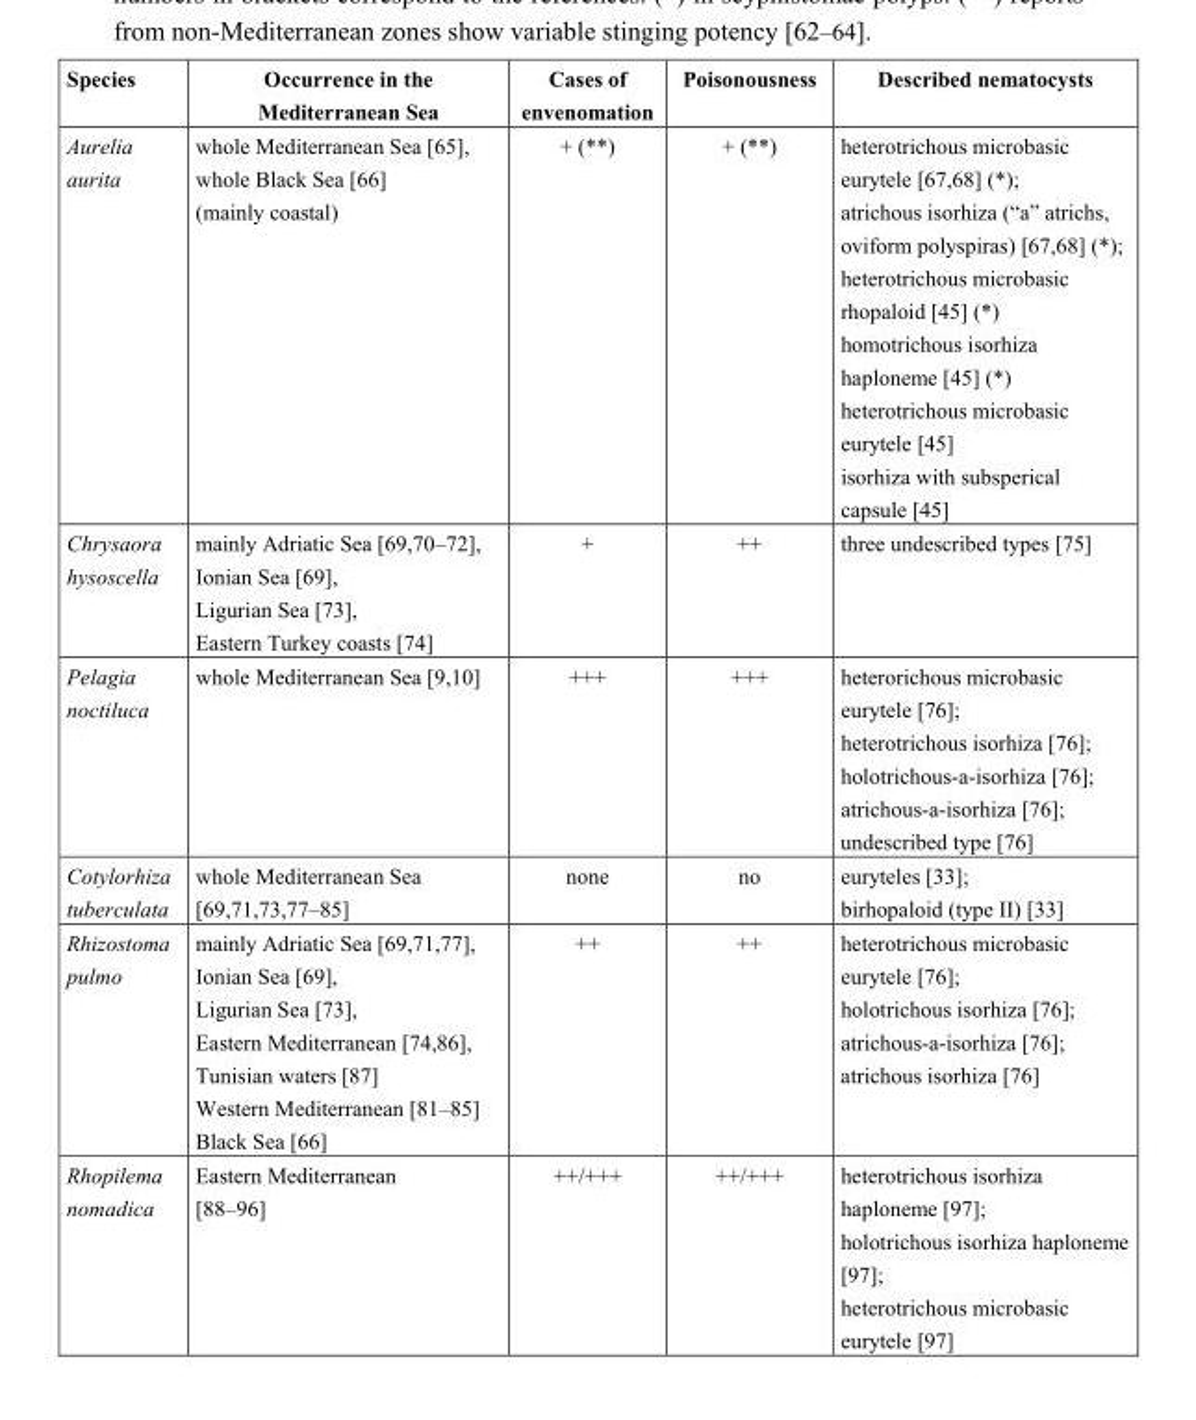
<table><thead><tr><td>Species</td><td>Occurrence in the Mediterranean Sea</td><td>Cases of envenomation</td><td>Poisonousness</td><td>Described nematocysts</td></tr></thead><tbody><tr><td>Aurelia aurita</td><td>whole Mediterranean Sea [65], whole Black Sea [66] (mainly coastal)</td><td>+ (**)</td><td>+ (**)</td><td>heterotrichous microbasic eurytele [67,68] (*); atrichous isorhiza (“a” atrichs, oviform polyspiras) [67,68] (*); heterotrichous microbasic rhopaloid [45] (*) homotrichous isorhiza haploneme [45] (*) heterotrichous microbasic eurytele [45] isorhiza with subsperical capsule [45]</td></tr><tr><td>Chrysaora hysoscella</td><td>mainly Adriatic Sea [69,70–72], Ionian Sea [69], Ligurian Sea [73], Eastern Turkey coasts [74]</td><td>+</td><td>++</td><td>three undescribed types [75]</td></tr><tr><td>Pelagia noctiluca</td><td>whole Mediterranean Sea [9,10]</td><td>+++</td><td>+++</td><td>heterorichous microbasic eurytele [76]; heterotrichous isorhiza [76]; holotrichous-a-isorhiza [76]; atrichous-a-isorhiza [76]; undescribed type [76]</td></tr><tr><td>Cotylorhiza tuberculata</td><td>whole Mediterranean Sea [69,71,73,77–85]</td><td>none</td><td>no</td><td>euryteles [33]; birhopaloid (type II) [33]</td></tr><tr><td>Rhizostoma pulmo</td><td>mainly Adriatic Sea [69,71,77], Ionian Sea [69], Ligurian Sea [73], Eastern Mediterranean [74,86], Tunisian waters [87] Western Mediterranean [81–85] Black Sea [66]</td><td>++</td><td>++</td><td>heterotrichous microbasic eurytele [76]; holotrichous isorhiza [76]; atrichous-a-isorhiza [76]; atrichous isorhiza [76]</td></tr><tr><td>Rhopilema nomadica</td><td>Eastern Mediterranean [88–96]</td><td>++/+++</td><td>++/+++</td><td>heterotrichous isorhiza haploneme [97]; holotrichous isorhiza haploneme [97]; heterotrichous microbasic eurytele [97]</td></tr></tbody></table>